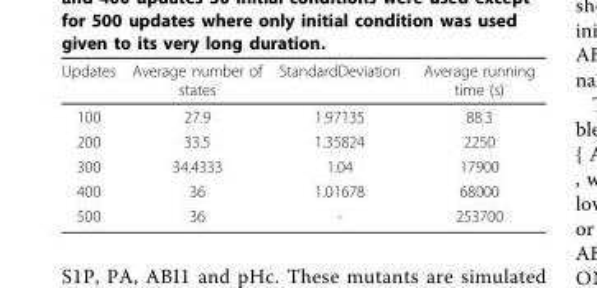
<table><thead><tr><td>Updates</td><td>Average number of states</td><td>StandardDeviation</td><td>Average running time (s)</td></tr></thead><tbody><tr><td>100</td><td>27.9</td><td>1.97135</td><td>88.3</td></tr><tr><td>200</td><td>33.5</td><td>1.35824</td><td>2250</td></tr><tr><td>300</td><td>34.4333</td><td>1.04</td><td>17900</td></tr><tr><td>400</td><td>36</td><td>1.01678</td><td>68000</td></tr><tr><td>500</td><td>36</td><td>-</td><td>253700</td></tr></tbody></table>